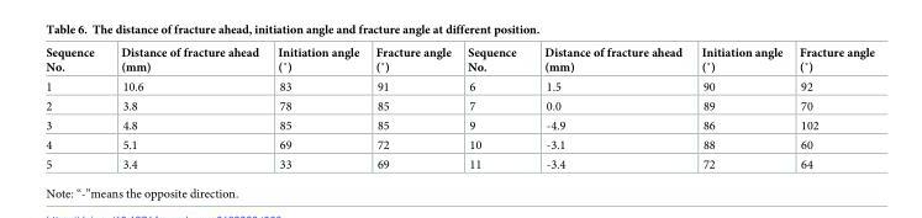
<table><thead><tr><td>Sequence No.</td><td>Distance of fracture ahead (mm)</td><td>Initiation angle (˚)</td><td>Fracture angle (˚)</td><td>Sequence No.</td><td>Distance of fracture ahead (mm)</td><td>Initiation angle (˚)</td><td>Fracture angle (˚)</td></tr></thead><tbody><tr><td>1</td><td>10.6</td><td>83</td><td>91</td><td>6</td><td>1.5</td><td>90</td><td>92</td></tr><tr><td>2</td><td>3.8</td><td>78</td><td>85</td><td>7</td><td>0.0</td><td>89</td><td>70</td></tr><tr><td>3</td><td>4.8</td><td>85</td><td>85</td><td>9</td><td>-4.9</td><td>86</td><td>102</td></tr><tr><td>4</td><td>5.1</td><td>69</td><td>72</td><td>10</td><td>-3.1</td><td>88</td><td>60</td></tr><tr><td>5</td><td>3.4</td><td>33</td><td>69</td><td>11</td><td>-3.4</td><td>72</td><td>64</td></tr></tbody></table>